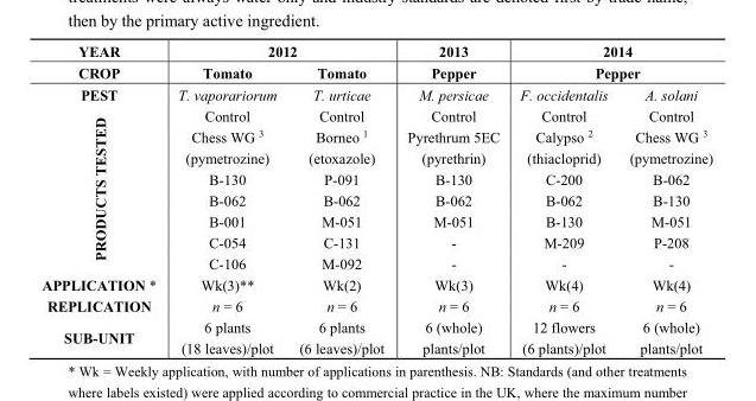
<table><thead><tr><td rowspan="3">YEAR CROP PEST</td><td colspan="2">2012</td><td rowspan="3">2013 Pepper M. persicae</td><td rowspan="2" colspan="2">2014 Pepper</td></tr><tr><td rowspan="2">Tomato T. vaporariorum</td><td rowspan="2">Tomato T. urticae</td></tr><tr><td>F. occidentalis</td><td>A. solani</td></tr></thead><tbody><tr><td rowspan="7">PRODUCTS TESTED</td><td>Control</td><td>Control</td><td>Control</td><td>Control</td><td>Control</td></tr><tr><td>Chess WG <sup>3</sup> (pymetrozine)</td><td>Borneo <sup>1</sup> (etoxazole)</td><td>Pyrethrum 5EC (pyrethrin)</td><td>Calypso <sup>2</sup> (thiacloprid)</td><td>Chess WG <sup>3</sup> (pymetrozine)</td></tr><tr><td>B-130</td><td>P-091</td><td>B-130</td><td>C-200</td><td>B-062</td></tr><tr><td>B-062</td><td>B-062</td><td>B-062</td><td>B-062</td><td>B-130</td></tr><tr><td>B-001</td><td>M-051</td><td>M-051</td><td>B-130</td><td>M-051</td></tr><tr><td>C-054</td><td>C-131</td><td>-</td><td>M-209</td><td>P-208</td></tr><tr><td>C-106</td><td>M-092</td><td>-</td><td>-</td><td>-</td></tr><tr><td>APPLICATION *</td><td>Wk(3)**</td><td>Wk(2)</td><td>Wk(3)</td><td>Wk(4)</td><td>Wk(4)</td></tr><tr><td>REPLICATION</td><td>n = 6</td><td>n = 6</td><td>n = 6</td><td>n = 6</td><td>n = 6</td></tr><tr><td>SUB-UNIT</td><td>6 plants (18 leaves)/plot</td><td>6 plants (6 leaves)/plot</td><td>6 (whole) plants/plot</td><td>12 flowers (6 plants)/plot</td><td>6 (whole) plants/plot</td></tr></tbody></table>